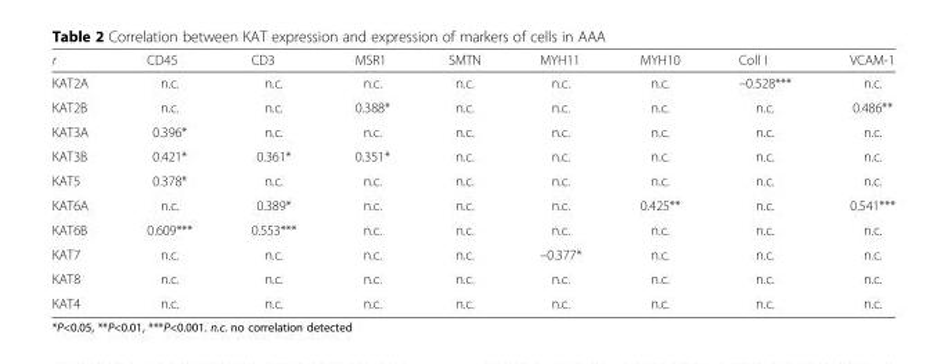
<table><thead><tr><td>r</td><td>CD45</td><td>CD3</td><td>MSR1</td><td>SMTN</td><td>MYH11</td><td>MYH10</td><td>Coll I</td><td>VCAM-1</td></tr></thead><tbody><tr><td>KAT2A</td><td>n.c.</td><td>n.c.</td><td>n.c.</td><td>n.c.</td><td>n.c.</td><td>n.c.</td><td>–0.528***</td><td>n.c.</td></tr><tr><td>KAT2B</td><td>n.c.</td><td>n.c.</td><td>0.388*</td><td>n.c.</td><td>n.c.</td><td>n.c.</td><td>n.c.</td><td>0.486**</td></tr><tr><td>KAT3A</td><td>0.396*</td><td>n.c.</td><td>n.c.</td><td>n.c.</td><td>n.c.</td><td>n.c.</td><td>n.c.</td><td>n.c.</td></tr><tr><td>KAT3B</td><td>0.421*</td><td>0.361*</td><td>0.351*</td><td>n.c.</td><td>n.c.</td><td>n.c.</td><td>n.c.</td><td>n.c.</td></tr><tr><td>KAT5</td><td>0.378*</td><td>n.c.</td><td>n.c.</td><td>n.c.</td><td>n.c.</td><td>n.c.</td><td>n.c.</td><td>n.c.</td></tr><tr><td>KAT6A</td><td>n.c.</td><td>0.389*</td><td>n.c.</td><td>n.c.</td><td>n.c.</td><td>0.425**</td><td>n.c.</td><td>0.541***</td></tr><tr><td>KAT6B</td><td>0.609***</td><td>0.553***</td><td>n.c.</td><td>n.c.</td><td>n.c.</td><td>n.c.</td><td>n.c.</td><td>n.c.</td></tr><tr><td>KAT7</td><td>n.c.</td><td>n.c.</td><td>n.c.</td><td>n.c.</td><td>–0.377*</td><td>n.c.</td><td>n.c.</td><td>n.c.</td></tr><tr><td>KAT8</td><td>n.c.</td><td>n.c.</td><td>n.c.</td><td>n.c.</td><td>n.c.</td><td>n.c.</td><td>n.c.</td><td>n.c.</td></tr><tr><td>KAT4</td><td>n.c.</td><td>n.c.</td><td>n.c.</td><td>n.c.</td><td>n.c.</td><td>n.c.</td><td>n.c.</td><td>n.c.</td></tr></tbody></table>